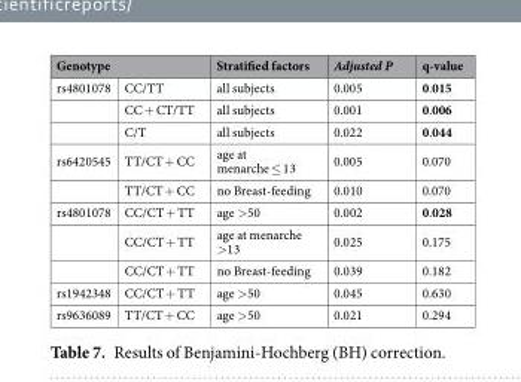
<table><thead><tr><td colspan="2">Genotype</td><td rowspan="2">Stratified factors all subjects</td><td rowspan="2">Adjusted P 0.005</td><td rowspan="2">q-value 0.015</td></tr><tr><td>rs4801078</td><td>CC/TT</td></tr></thead><tbody><tr><td></td><td>CC + CT/TT</td><td>all subjects</td><td>0.001</td><td>0.006</td></tr><tr><td></td><td>C/T</td><td>all subjects</td><td>0.022</td><td>0.044</td></tr><tr><td rowspan="2">rs6420545</td><td>TT/CT + CC</td><td>age at menarche ≤ 13</td><td>0.005</td><td>0.070</td></tr><tr><td>TT/CT + CC</td><td>no Breast-feeding</td><td>0.010</td><td>0.070</td></tr><tr><td rowspan="3">rs4801078</td><td>CC/CT + TT</td><td>age &gt;50</td><td>0.002</td><td>0.028</td></tr><tr><td>CC/CT + TT</td><td>age at menarche &gt;13</td><td>0.025</td><td>0.175</td></tr><tr><td>CC/CT + TT</td><td>no Breast-feeding</td><td>0.039</td><td>0.182</td></tr><tr><td>rs1942348</td><td>CC/CT + TT</td><td>age &gt;50</td><td>0.045</td><td>0.630</td></tr><tr><td>rs9636089</td><td>TT/CT + CC</td><td>age &gt;50</td><td>0.021</td><td>0.294</td></tr></tbody></table>